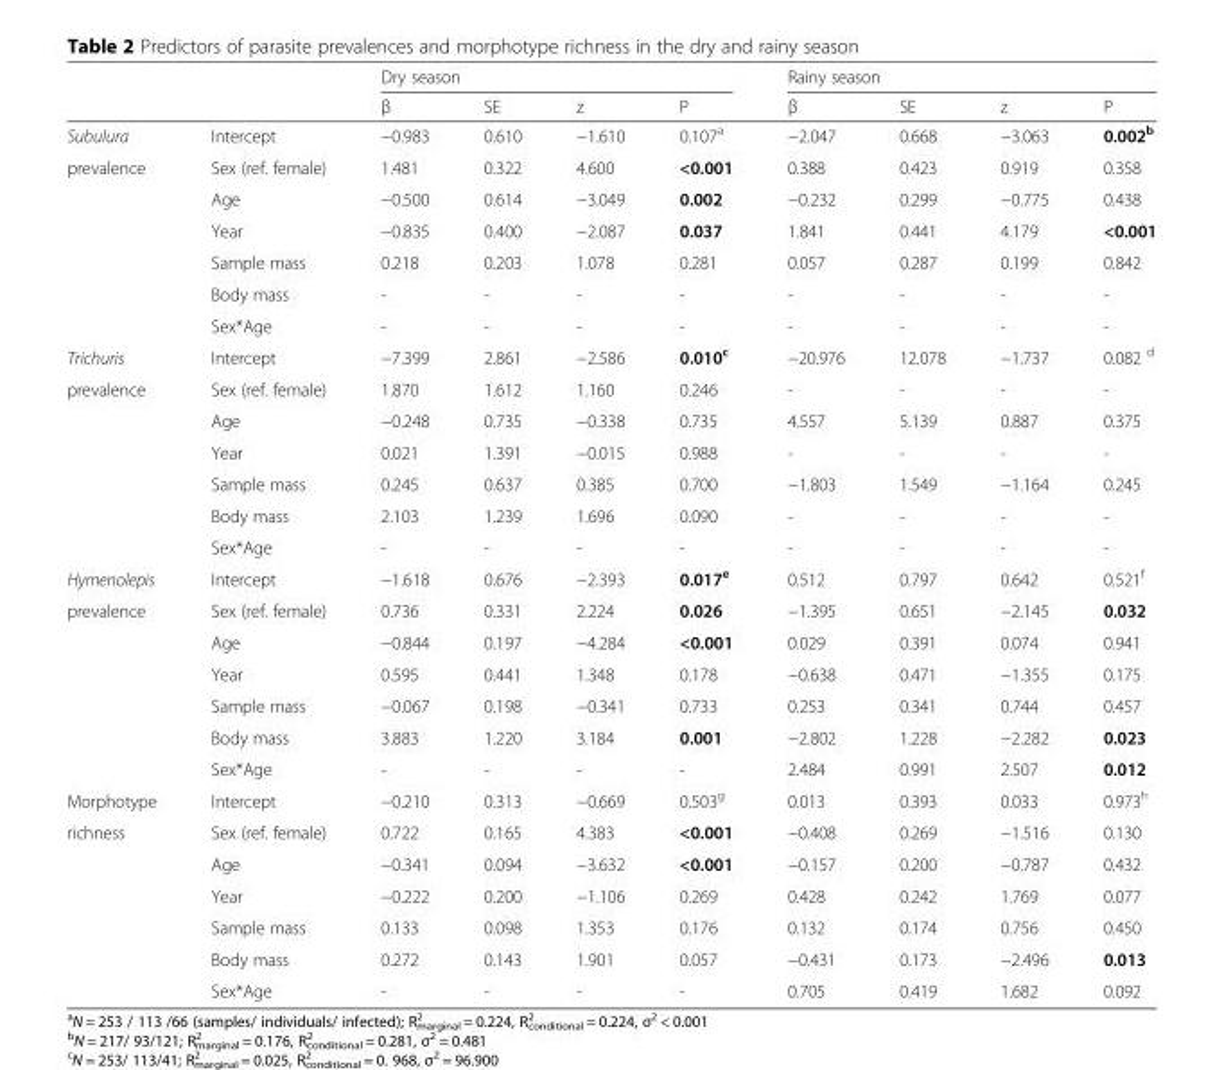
<table><thead><tr><td rowspan="2"></td><td rowspan="2"></td><td colspan="4">Dry season</td><td colspan="4">Rainy season</td></tr><tr><td>β</td><td>SE</td><td>z</td><td>P</td><td>β</td><td>SE</td><td>z</td><td>P</td></tr></thead><tbody><tr><td>Subulura</td><td>Intercept</td><td>−0.983</td><td>0.610</td><td>−1.610</td><td>0.107<sup>a</sup></td><td>−2.047</td><td>0.668</td><td>−3.063</td><td>0.002<sup>b</sup></td></tr><tr><td rowspan="6">prevalence</td><td>Sex (ref. female)</td><td>1.481</td><td>0.322</td><td>4.600</td><td>&lt;0.001</td><td>0.388</td><td>0.423</td><td>0.919</td><td>0.358</td></tr><tr><td>Age</td><td>−0.500</td><td>0.614</td><td>−3.049</td><td>0.002</td><td>−0.232</td><td>0.299</td><td>−0.775</td><td>0.438</td></tr><tr><td>Year</td><td>−0.835</td><td>0.400</td><td>−2.087</td><td>0.037</td><td>1.841</td><td>0.441</td><td>4.179</td><td>&lt;0.001</td></tr><tr><td>Sample mass</td><td>0.218</td><td>0.203</td><td>1.078</td><td>0.281</td><td>0.057</td><td>0.287</td><td>0.199</td><td>0.842</td></tr><tr><td>Body mass</td><td>-</td><td>-</td><td>-</td><td>-</td><td>-</td><td>-</td><td>-</td><td>-</td></tr><tr><td>Sex*Age</td><td>-</td><td>-</td><td>-</td><td>-</td><td>-</td><td>-</td><td>-</td><td>-</td></tr><tr><td>Trichuris</td><td>Intercept</td><td>−7.399</td><td>2.861</td><td>−2.586</td><td>0.010<sup>c</sup></td><td>−20.976</td><td>12.078</td><td>−1.737</td><td>0.082 <sup>d</sup></td></tr><tr><td rowspan="6">prevalence</td><td>Sex (ref. female)</td><td>1.870</td><td>1.612</td><td>1.160</td><td>0.246</td><td>-</td><td>-</td><td>-</td><td>-</td></tr><tr><td>Age</td><td>−0.248</td><td>0.735</td><td>−0.338</td><td>0.735</td><td>4.557</td><td>5.139</td><td>0.887</td><td>0.375</td></tr><tr><td>Year</td><td>0.021</td><td>1.391</td><td>−0.015</td><td>0.988</td><td>-</td><td>-</td><td>-</td><td>-</td></tr><tr><td>Sample mass</td><td>0.245</td><td>0.637</td><td>0.385</td><td>0.700</td><td>−1.803</td><td>1.549</td><td>−1.164</td><td>0.245</td></tr><tr><td>Body mass</td><td>2.103</td><td>1.239</td><td>1.696</td><td>0.090</td><td>-</td><td>-</td><td>-</td><td>-</td></tr><tr><td>Sex*Age</td><td>-</td><td>-</td><td>-</td><td>-</td><td>-</td><td>-</td><td>-</td><td>-</td></tr><tr><td>Hymenolepis</td><td>Intercept</td><td>−1.618</td><td>0.676</td><td>−2.393</td><td>0.017<sup>e</sup></td><td>0.512</td><td>0.797</td><td>0.642</td><td>0.521<sup>f</sup></td></tr><tr><td rowspan="6">prevalence</td><td>Sex (ref. female)</td><td>0.736</td><td>0.331</td><td>2.224</td><td>0.026</td><td>−1.395</td><td>0.651</td><td>−2.145</td><td>0.032</td></tr><tr><td>Age</td><td>−0.844</td><td>0.197</td><td>−4.284</td><td>&lt;0.001</td><td>0.029</td><td>0.391</td><td>0.074</td><td>0.941</td></tr><tr><td>Year</td><td>0.595</td><td>0.441</td><td>1.348</td><td>0.178</td><td>−0.638</td><td>0.471</td><td>−1.355</td><td>0.175</td></tr><tr><td>Sample mass</td><td>−0.067</td><td>0.198</td><td>−0.341</td><td>0.733</td><td>0.253</td><td>0.341</td><td>0.744</td><td>0.457</td></tr><tr><td>Body mass</td><td>3.883</td><td>1.220</td><td>3.184</td><td>0.001</td><td>−2.802</td><td>1.228</td><td>−2.282</td><td>0.023</td></tr><tr><td>Sex*Age</td><td>-</td><td>-</td><td>-</td><td>-</td><td>2.484</td><td>0.991</td><td>2.507</td><td>0.012</td></tr><tr><td>Morphotype</td><td>Intercept</td><td>−0.210</td><td>0.313</td><td>−0.669</td><td>0.503<sup>g</sup></td><td>0.013</td><td>0.393</td><td>0.033</td><td>0.973<sup>h</sup></td></tr><tr><td rowspan="6">richness</td><td>Sex (ref. female)</td><td>0.722</td><td>0.165</td><td>4.383</td><td>&lt;0.001</td><td>−0.408</td><td>0.269</td><td>−1.516</td><td>0.130</td></tr><tr><td>Age</td><td>−0.341</td><td>0.094</td><td>−3.632</td><td>&lt;0.001</td><td>−0.157</td><td>0.200</td><td>−0.787</td><td>0.432</td></tr><tr><td>Year</td><td>−0.222</td><td>0.200</td><td>−1.106</td><td>0.269</td><td>0.428</td><td>0.242</td><td>1.769</td><td>0.077</td></tr><tr><td>Sample mass</td><td>0.133</td><td>0.098</td><td>1.353</td><td>0.176</td><td>0.132</td><td>0.174</td><td>0.756</td><td>0.450</td></tr><tr><td>Body mass</td><td>0.272</td><td>0.143</td><td>1.901</td><td>0.057</td><td>−0.431</td><td>0.173</td><td>−2.496</td><td>0.013</td></tr><tr><td>Sex*Age</td><td>-</td><td>-</td><td>-</td><td>-</td><td>0.705</td><td>0.419</td><td>1.682</td><td>0.092</td></tr></tbody></table>